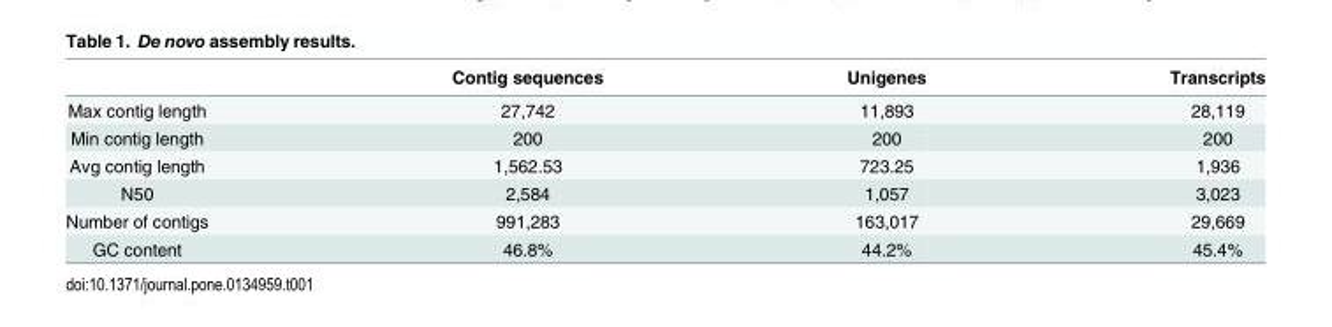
<table><thead><tr><td></td><td>Contig sequences</td><td>Unigenes</td><td>Transcripts</td></tr></thead><tbody><tr><td>Max contig length</td><td>27,742</td><td>11,893</td><td>28,119</td></tr><tr><td>Min contig length</td><td>200</td><td>200</td><td>200</td></tr><tr><td>Avg contig length</td><td>1,562.53</td><td>723.25</td><td>1,936</td></tr><tr><td>N50</td><td>2,584</td><td>1,057</td><td>3,023</td></tr><tr><td>Number of contigs</td><td>991,283</td><td>163,017</td><td>29,669</td></tr><tr><td>GC content</td><td>46.8%</td><td>44.2%</td><td>45.4%</td></tr></tbody></table>